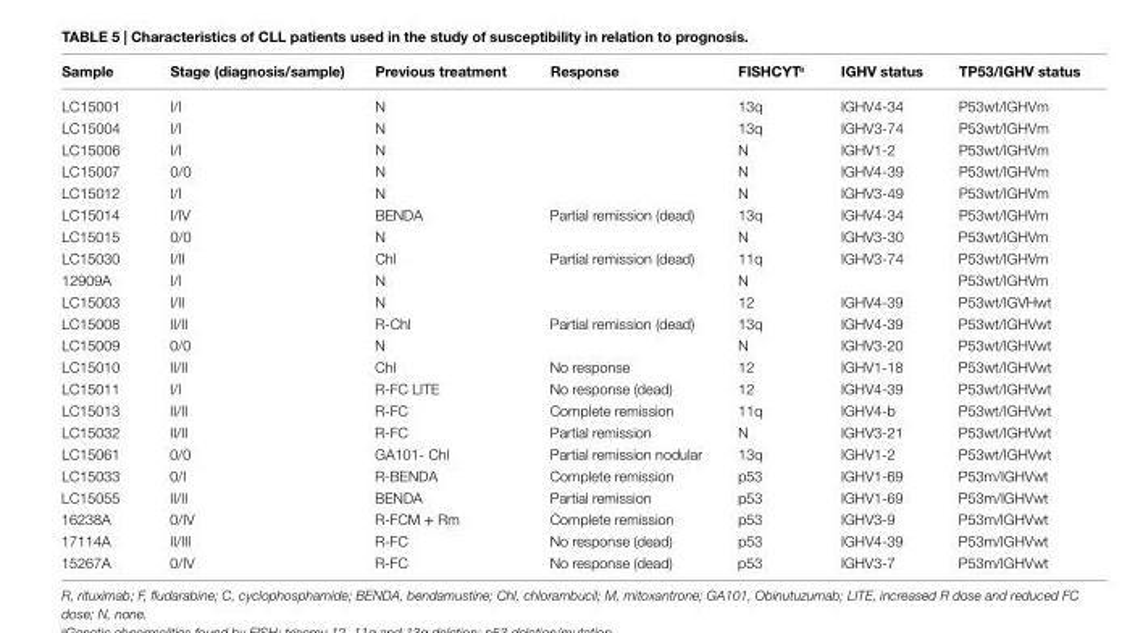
<table><thead><tr><td>sample</td><td>stage (diagnosis/sample)</td><td>Previous treatment</td><td>response</td><td>FishcYT<sup>a</sup></td><td>ighV status</td><td>TP53/ighV status</td></tr></thead><tbody><tr><td>LC15001</td><td>I/I</td><td>N</td><td></td><td>13q</td><td>IGHV4-34</td><td>P53wt/IGHVm</td></tr><tr><td>LC15004</td><td>I/I</td><td>N</td><td></td><td>13q</td><td>IGHV3-74</td><td>P53wt/IGHVm</td></tr><tr><td>LC15006</td><td>I/I</td><td>N</td><td></td><td>N</td><td>IGHV1-2</td><td>P53wt/IGHVm</td></tr><tr><td>LC15007</td><td>0/0</td><td>N</td><td></td><td>N</td><td>IGHV4-39</td><td>P53wt/IGHVm</td></tr><tr><td>LC15012</td><td>I/I</td><td>N</td><td></td><td>N</td><td>IGHV3-49</td><td>P53wt/IGHVm</td></tr><tr><td>LC15014</td><td>I/IV</td><td>BENDA</td><td>Partial remission (dead)</td><td>13q</td><td>IGHV4-34</td><td>P53wt/IGHVm</td></tr><tr><td>LC15015</td><td>0/0</td><td>N</td><td></td><td>N</td><td>IGHV3-30</td><td>P53wt/IGHVm</td></tr><tr><td>LC15030</td><td>I/II</td><td>Chl</td><td>Partial remission (dead)</td><td>11q</td><td>IGHV3-74</td><td>P53wt/IGHVm</td></tr><tr><td>12909A</td><td>I/I</td><td>N</td><td></td><td>N</td><td></td><td>P53wt/IGHVm</td></tr><tr><td>LC15003</td><td>I/II</td><td>N</td><td></td><td>12</td><td>IGHV4-39</td><td>P53wt/IGVHwt</td></tr><tr><td>LC15008</td><td>II/II</td><td>R-Chl</td><td>Partial remission (dead)</td><td>13q</td><td>IGHV4-39</td><td>P53wt/IGHVwt</td></tr><tr><td>LC15009</td><td>0/0</td><td>N</td><td></td><td>N</td><td>IGHV3-20</td><td>P53wt/IGHVwt</td></tr><tr><td>LC15010</td><td>II/II</td><td>Chl</td><td>No response</td><td>12</td><td>IGHV1-18</td><td>P53wt/IGHVwt</td></tr><tr><td>LC15011</td><td>I/I</td><td>R-FC LITE</td><td>No response (dead)</td><td>12</td><td>IGHV4-39</td><td>P53wt/IGHVwt</td></tr><tr><td>LC15013</td><td>II/II</td><td>R-FC</td><td>Complete remission</td><td>11q</td><td>IGHV4-b</td><td>P53wt/IGHVwt</td></tr><tr><td>LC15032</td><td>II/II</td><td>R-FC</td><td>Partial remission</td><td>N</td><td>IGHV3-21</td><td>P53wt/IGHVwt</td></tr><tr><td>LC15061</td><td>0/0</td><td>GA101- Chl</td><td>Partial remission nodular</td><td>13q</td><td>IGHV1-2</td><td>P53wt/IGHVwt</td></tr><tr><td>LC15033</td><td>0/I</td><td>R-BENDA</td><td>Complete remission</td><td>p53</td><td>IGHV1-69</td><td>P53m/IGHVwt</td></tr><tr><td>LC15055</td><td>II/II</td><td>BENDA</td><td>Partial remission</td><td>p53</td><td>IGHV1-69</td><td>P53m/IGHVwt</td></tr><tr><td>16238A</td><td>0/IV</td><td>R-FCM + Rm</td><td>Complete remission</td><td>p53</td><td>IGHV3-9</td><td>P53m/IGHVwt</td></tr><tr><td>17114A</td><td>II/III</td><td>R-FC</td><td>No response (dead)</td><td>p53</td><td>IGHV4-39</td><td>P53m/IGHVwt</td></tr><tr><td>15267A</td><td>0/IV</td><td>R-FC</td><td>No response (dead)</td><td>p53</td><td>IGHV3-7</td><td>P53m/IGHVwt</td></tr></tbody></table>